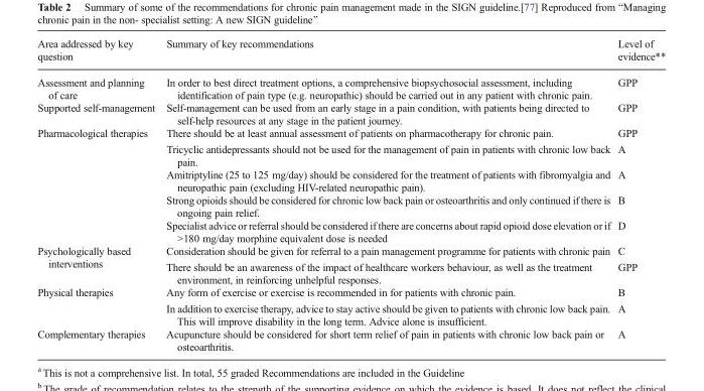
<table><thead><tr><td>Area addressed by key question</td><td>Summary of key recommendations</td><td>Level of evidence**</td></tr></thead><tbody><tr><td>Assessment and planning of care</td><td>In order to best direct treatment options, a comprehensive biopsychosocial assessment, including identification of pain type (e.g. neuropathic) should be carried out in any patient with chronic pain.</td><td>GPP</td></tr><tr><td>Supported self-management</td><td>Self-management can be used from an early stage in a pain condition, with patients being directed to self-help resources at any stage in the patient journey.</td><td>GPP</td></tr><tr><td rowspan="5">Pharmacological therapies</td><td>There should be at least annual assessment of patients on pharmacotherapy for chronic pain.</td><td>GPP</td></tr><tr><td>Tricyclic antidepressants should not be used for the management of pain in patients with chronic low back pain.</td><td>A</td></tr><tr><td>Amitriptyline (25 to 125 mg/day) should be considered for the treatment of patients with fibromyalgia and neuropathic pain (excluding HIV-related neuropathic pain).</td><td>A</td></tr><tr><td>Strong opioids should be considered for chronic low back pain or osteoarthritis and only continued if there is ongoing pain relief.</td><td>B</td></tr><tr><td>Specialist advice or referral should be considered if there are concerns about rapid opioid dose elevation or if &gt;180 mg/day morphine equivalent dose is needed</td><td>D</td></tr><tr><td rowspan="2">Psychologically based interventions</td><td>Consideration should be given for referral to a pain management programme for patients with chronic pain</td><td>C</td></tr><tr><td>There should be an awareness of the impact of healthcare workers behaviour, as well as the treatment environment, in reinforcing unhelpful responses.</td><td>GPP</td></tr><tr><td rowspan="2">Physical therapies</td><td>Any form of exercise or exercise is recommended in for patients with chronic pain.</td><td>B</td></tr><tr><td>In addition to exercise therapy, advice to stay active should be given to patients with chronic low back pain. This will improve disability in the long term. Advice alone is insufficient.</td><td>A</td></tr><tr><td>Complementary therapies</td><td>Acupuncture should be considered for short term relief of pain in patients with chronic low back pain or osteoarthritis.</td><td>A</td></tr></tbody></table>